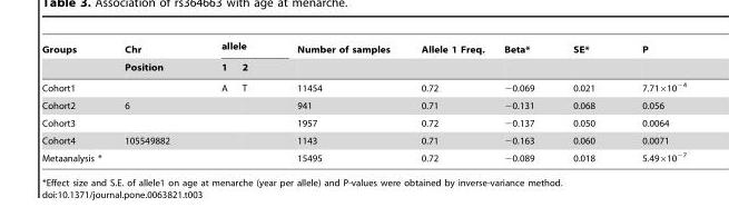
<table><thead><tr><td rowspan="2">Groups</td><td rowspan="2">Chr Position</td><td colspan="2">allele</td><td rowspan="2">Number of samples</td><td rowspan="2">Allele 1 Freq.</td><td rowspan="2">Beta*</td><td rowspan="2">SE*</td><td rowspan="2">P</td></tr><tr><td>1</td><td>2</td></tr></thead><tbody><tr><td>Cohort1</td><td></td><td>A</td><td>T</td><td>11454</td><td>0.72</td><td>−0.069</td><td>0.021</td><td>7.71×10<sup>−4</sup></td></tr><tr><td>Cohort2</td><td>6</td><td></td><td></td><td>941</td><td>0.71</td><td>−0.131</td><td>0.068</td><td>0.056</td></tr><tr><td>Cohort3</td><td></td><td></td><td></td><td>1957</td><td>0.72</td><td>−0.137</td><td>0.050</td><td>0.0064</td></tr><tr><td>Cohort4</td><td>105549882</td><td></td><td></td><td>1143</td><td>0.71</td><td>−0.163</td><td>0.060</td><td>0.0071</td></tr><tr><td>Metaanalysis *</td><td></td><td></td><td></td><td>15495</td><td>0.72</td><td>−0.089</td><td>0.018</td><td>5.49×10<sup>−7</sup></td></tr></tbody></table>